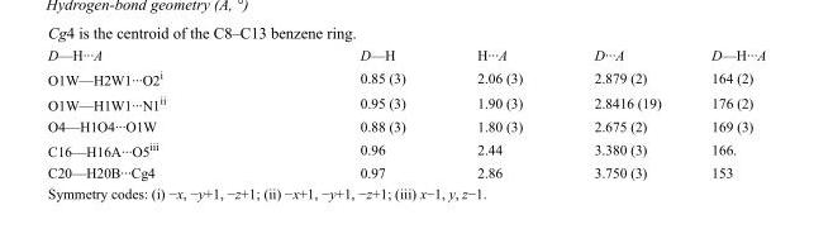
<table><tbody><tr><td>D—H···A</td><td>D—H</td><td>H···A</td><td>D···A</td><td>D—H···A</td></tr><tr><td>O1W—H2W1···O2<sup>i</sup></td><td>0.85 (3)</td><td>2.06 (3)</td><td>2.879 (2)</td><td>164 (2)</td></tr><tr><td>O1W—H1W1···N1<sup>ii</sup></td><td>0.95 (3)</td><td>1.90 (3)</td><td>2.8416 (19)</td><td>176 (2)</td></tr><tr><td>O4—H1O4···O1W</td><td>0.88 (3)</td><td>1.80 (3)</td><td>2.675 (2)</td><td>169 (3)</td></tr><tr><td>C16—H16A···O5<sup>iii</sup></td><td>0.96</td><td>2.44</td><td>3.380 (3)</td><td>166.</td></tr><tr><td>C20—H20B···Cg4</td><td>0.97</td><td>2.86</td><td>3.750 (3)</td><td>153</td></tr></tbody></table>